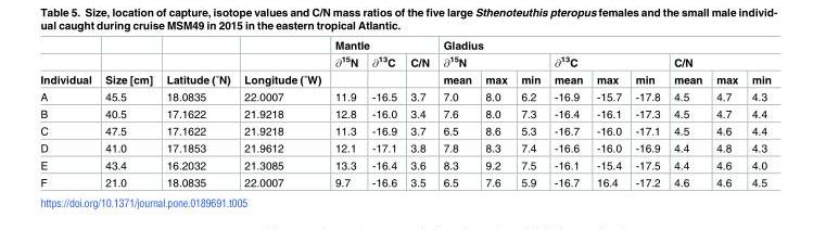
<table><thead><tr><td rowspan="3">Individual</td><td rowspan="3">Size [cm]</td><td rowspan="3">Latitude (˚N)</td><td rowspan="3">Longitude (˚W)</td><td colspan="3">Mantle</td><td colspan="9">Gladius</td></tr><tr><td rowspan="2">∂<sup>15</sup>N</td><td rowspan="2">∂<sup>13</sup>C</td><td rowspan="2">C/N</td><td colspan="3">∂<sup>15</sup>N</td><td colspan="3">∂<sup>13</sup>C</td><td colspan="3">C/N</td></tr><tr><td>mean</td><td>max</td><td>min</td><td>mean</td><td>max</td><td>min</td><td>mean</td><td>max</td><td>min</td></tr></thead><tbody><tr><td>A</td><td>45.5</td><td>18.0835</td><td>22.0007</td><td>11.9</td><td>-16.5</td><td>3.7</td><td>7.0</td><td>8.0</td><td>6.2</td><td>-16.9</td><td>-15.7</td><td>-17.8</td><td>4.5</td><td>4.7</td><td>4.3</td></tr><tr><td>B</td><td>40.5</td><td>17.1622</td><td>21.9218</td><td>12.8</td><td>-16.0</td><td>3.4</td><td>7.6</td><td>8.0</td><td>7.3</td><td>-16.4</td><td>-16.1</td><td>-17.3</td><td>4.5</td><td>4.7</td><td>4.4</td></tr><tr><td>C</td><td>47.5</td><td>17.1622</td><td>21.9218</td><td>11.3</td><td>-16.9</td><td>3.7</td><td>6.5</td><td>8.6</td><td>5.3</td><td>-16.7</td><td>-16.0</td><td>-17.1</td><td>4.5</td><td>4.6</td><td>4.4</td></tr><tr><td>D</td><td>41.0</td><td>17.1853</td><td>21.9612</td><td>12.1</td><td>-17.1</td><td>3.8</td><td>7.8</td><td>8.3</td><td>7.4</td><td>-16.6</td><td>-16.0</td><td>-16.9</td><td>4.4</td><td>4.8</td><td>4.3</td></tr><tr><td>E</td><td>43.4</td><td>16.2032</td><td>21.3085</td><td>13.3</td><td>-16.4</td><td>3.6</td><td>8.3</td><td>9.2</td><td>7.5</td><td>-16.1</td><td>-15.4</td><td>-17.5</td><td>4.4</td><td>4.6</td><td>4.0</td></tr><tr><td>F</td><td>21.0</td><td>18.0835</td><td>22.0007</td><td>9.7</td><td>-16.6</td><td>3.5</td><td>6.5</td><td>7.6</td><td>5.9</td><td>-16.7</td><td>16.4</td><td>-17.2</td><td>4.6</td><td>4.6</td><td>4.5</td></tr></tbody></table>